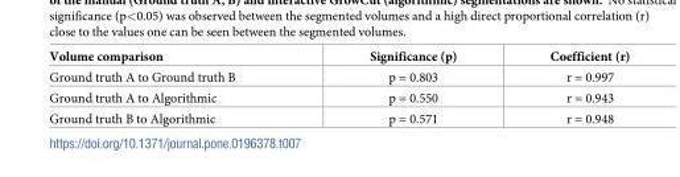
<table><thead><tr><td>Volume comparison</td><td>Significance (p)</td><td>Coefficient (r)</td></tr></thead><tbody><tr><td>Ground truth A to Ground truth B</td><td>p = 0.803</td><td>r = 0.997</td></tr><tr><td>Ground truth A to Algorithmic</td><td>p = 0.550</td><td>r = 0.943</td></tr><tr><td>Ground truth B to Algorithmic</td><td>p = 0.571</td><td>r = 0.948</td></tr></tbody></table>